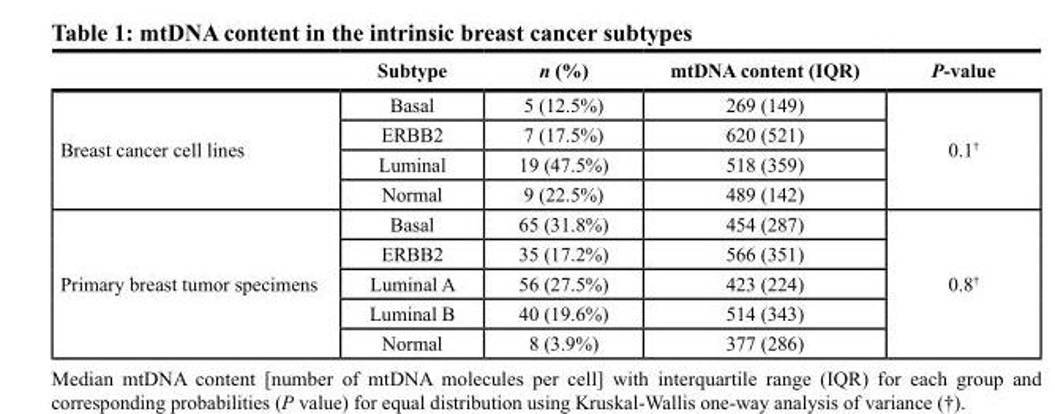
<table><thead><tr><td></td><td>Subtype</td><td>n (%)</td><td>mtDNA content (IQR)</td><td>P-value</td></tr></thead><tbody><tr><td rowspan="4">Breast cancer cell lines</td><td>Basal</td><td>5 (12.5%)</td><td>269 (149)</td><td rowspan="4">0.1<sup>†</sup></td></tr><tr><td>ERBB2</td><td>7 (17.5%)</td><td>620 (521)</td></tr><tr><td>Luminal</td><td>19 (47.5%)</td><td>518 (359)</td></tr><tr><td>Normal</td><td>9 (22.5%)</td><td>489 (142)</td></tr><tr><td rowspan="5">Primary breast tumor specimens</td><td>Basal</td><td>65 (31.8%)</td><td>454 (287)</td><td rowspan="5">0.8<sup>†</sup></td></tr><tr><td>ERBB2</td><td>35 (17.2%)</td><td>566 (351)</td></tr><tr><td>Luminal A</td><td>56 (27.5%)</td><td>423 (224)</td></tr><tr><td>Luminal B</td><td>40 (19.6%)</td><td>514 (343)</td></tr><tr><td>Normal</td><td>8 (3.9%)</td><td>377 (286)</td></tr></tbody></table>